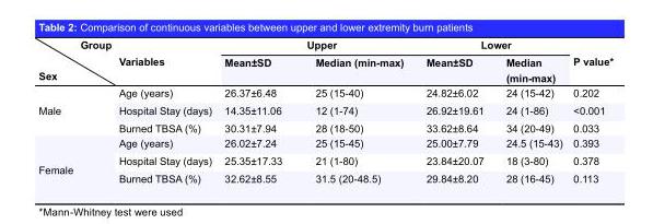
<table><thead><tr><td rowspan="2">Group Sex</td><td rowspan="2">Variables</td><td colspan="2">Upper</td><td colspan="2">Lower</td><td rowspan="2">P value*</td></tr><tr><td>Mean±SD</td><td>Median (min-max)</td><td>Mean±SD</td><td>Median (min-max)</td></tr></thead><tbody><tr><td rowspan="3">Male</td><td>Age (years)</td><td>26.37±6.48</td><td>25 (15-40)</td><td>24.82±6.02</td><td>24 (15-42)</td><td>0.202</td></tr><tr><td>Hospital Stay (days)</td><td>14.35±11.06</td><td>12 (1-74)</td><td>26.92±19.61</td><td>24 (1-86)</td><td>&lt;0.001</td></tr><tr><td>Burned TBSA (%)</td><td>30.31±7.94</td><td>28 (18-50)</td><td>33.62±8.64</td><td>34 (20-49)</td><td>0.033</td></tr><tr><td rowspan="3">Female</td><td>Age (years)</td><td>26.02±7.24</td><td>25 (15-45)</td><td>25.00±7.79</td><td>24.5 (15-43)</td><td>0.393</td></tr><tr><td>Hospital Stay (days)</td><td>25.35±17.33</td><td>21 (1-80)</td><td>23.84±20.07</td><td>18 (3-80)</td><td>0.378</td></tr><tr><td>Burned TBSA (%)</td><td>32.62±8.55</td><td>31.5 (20-48.5)</td><td>29.84±8.20</td><td>28 (16-45)</td><td>0.113</td></tr></tbody></table>